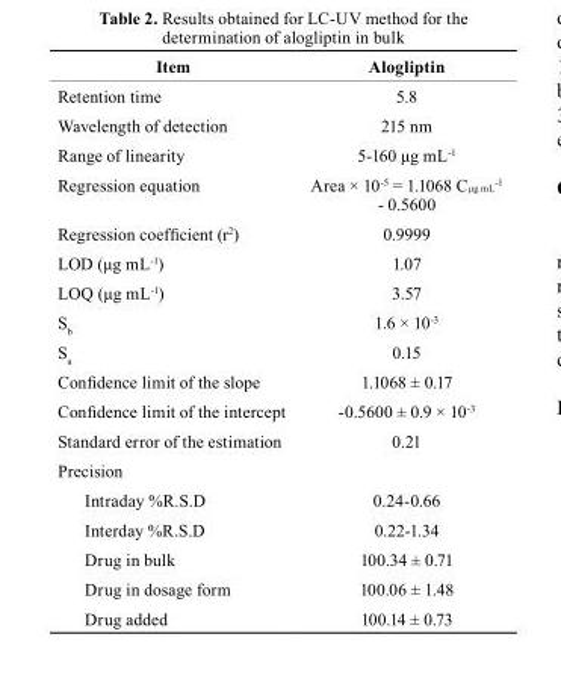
<table><thead><tr><td>Item</td><td>Alogliptin</td></tr></thead><tbody><tr><td>Retention time</td><td>5.8</td></tr><tr><td>Wavelength of detection</td><td>215 nm</td></tr><tr><td>Range of linearity</td><td>5-160 μg mL<sup>-1</sup></td></tr><tr><td>Regression equation</td><td>Area × 10<sup>-5</sup> = 1.1068 C<sub>μg mL</sub><sup><sub>-1</sub></sup> - 0.5600</td></tr><tr><td>Regression coefficient (r<sup>2</sup>)</td><td>0.9999</td></tr><tr><td>LOD (μg mL<sup>-1</sup>)</td><td>1.07</td></tr><tr><td>LOQ (μg mL<sup>-1</sup>)</td><td>3.57</td></tr><tr><td>S<sub>b</sub></td><td>1.6 × 10<sup>-3</sup></td></tr><tr><td>S<sub>a</sub></td><td>0.15</td></tr><tr><td>Confidence limit of the slope</td><td>1.1068 ± 0.17</td></tr><tr><td>Confidence limit of the intercept</td><td>-0.5600 ± 0.9 × 10<sup>-3</sup></td></tr><tr><td>Standard error of the estimation</td><td>0.21</td></tr><tr><td colspan="2">Precision</td></tr><tr><td>Intraday %R.S.D</td><td>0.24-0.66</td></tr><tr><td>Interday %R.S.D</td><td>0.22-1.34</td></tr><tr><td>Drug in bulk</td><td>100.34 ± 0.71</td></tr><tr><td>Drug in dosage form</td><td>100.06 ± 1.48</td></tr><tr><td>Drug added</td><td>100.14 ± 0.73</td></tr></tbody></table>